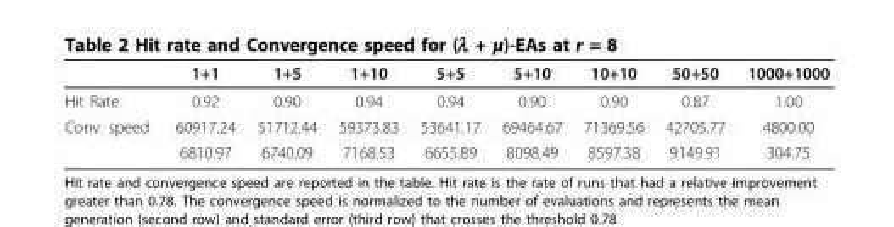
<table><thead><tr><td></td><td>1+1</td><td>1+5</td><td>1+10</td><td>5+5</td><td>5+10</td><td>10+10</td><td>50+50</td><td>1000+1000</td></tr></thead><tbody><tr><td>Hit Rate</td><td>0.92</td><td>0.90</td><td>0.94</td><td>0.94</td><td>0.90</td><td>0.90</td><td>0.87</td><td>1.00</td></tr><tr><td rowspan="2">Conv. speed</td><td>60917.24</td><td>51712.44</td><td>59373.83</td><td>53641.17</td><td>69464.67</td><td>71369.56</td><td>42705.77</td><td>4800.00</td></tr><tr><td>6810.97</td><td>6740.09</td><td>7168.53</td><td>6655.89</td><td>8098.49</td><td>8597.38</td><td>9149.91</td><td>304.75</td></tr></tbody></table>